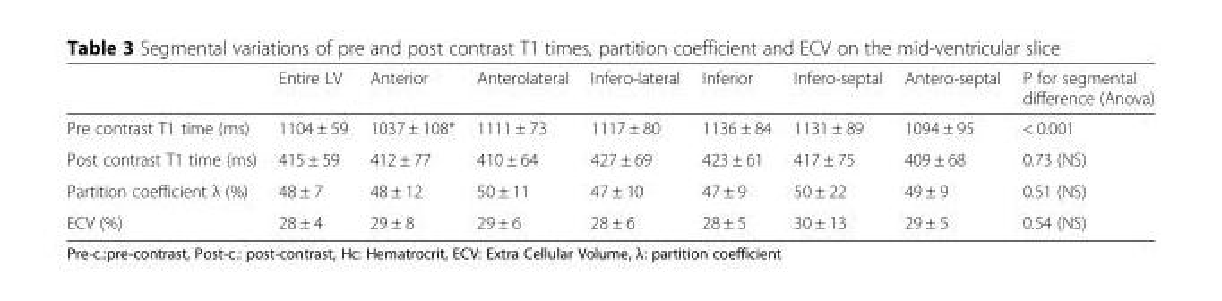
<table><thead><tr><td></td><td>Entire LV</td><td>Anterior</td><td>Anterolateral</td><td>Infero-lateral</td><td>Inferior</td><td>Infero-septal</td><td>Antero-septal</td><td>P for segmental difference (Anova)</td></tr></thead><tbody><tr><td>Pre contrast T1 time (ms)</td><td>1104 ± 59</td><td>1037 ± 108*</td><td>1111 ± 73</td><td>1117 ± 80</td><td>1136 ± 84</td><td>1131 ± 89</td><td>1094 ± 95</td><td>&lt; 0.001</td></tr><tr><td>Post contrast T1 time (ms)</td><td>415 ± 59</td><td>412 ± 77</td><td>410 ± 64</td><td>427 ± 69</td><td>423 ± 61</td><td>417 ± 75</td><td>409 ± 68</td><td>0.73 (NS)</td></tr><tr><td>Partition coefficient λ (%)</td><td>48 ± 7</td><td>48 ± 12</td><td>50 ± 11</td><td>47 ± 10</td><td>47 ± 9</td><td>50 ± 22</td><td>49 ± 9</td><td>0.51 (NS)</td></tr><tr><td>ECV (%)</td><td>28 ± 4</td><td>29 ± 8</td><td>29 ± 6</td><td>28 ± 6</td><td>28 ± 5</td><td>30 ± 13</td><td>29 ± 5</td><td>0.54 (NS)</td></tr></tbody></table>